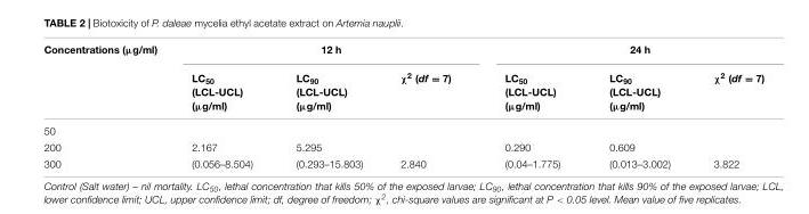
<table><thead><tr><td rowspan="2">Concentrations (µg/ml)</td><td colspan="3">12 h</td><td colspan="3">24 h</td></tr><tr><td>LC<sub>50</sub> (LCL-UCL) (µg/ml)</td><td>LC<sub>90</sub> (LCL-UCL) (µg/ml)</td><td>χ<sup>2</sup> (df = 7)</td><td>LC<sub>50</sub> (LCL-UCL) (µg/ml)</td><td>LC<sub>90</sub> (LCL-UCL) (µg/ml)</td><td>χ<sup>2</sup> (df = 7)</td></tr></thead><tbody><tr><td colspan="7">50</td></tr><tr><td>200</td><td>2.167</td><td>5.295</td><td></td><td>0.290</td><td>0.609</td><td></td></tr><tr><td>300</td><td>(0.056–8.504)</td><td>(0.293–15.803)</td><td>2.840</td><td>(0.04–1.775)</td><td>(0.013–3.002)</td><td>3.822</td></tr></tbody></table>